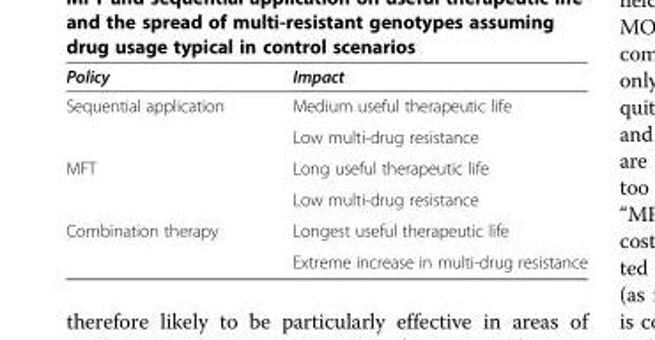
<table><thead><tr><td>Policy</td><td>Impact</td></tr></thead><tbody><tr><td rowspan="2">Sequential application</td><td>Medium useful therapeutic life</td></tr><tr><td>Low multi-drug resistance</td></tr><tr><td rowspan="2">MFT</td><td>Long useful therapeutic life</td></tr><tr><td>Low multi-drug resistance</td></tr><tr><td rowspan="2">Combination therapy</td><td>Longest useful therapeutic life</td></tr><tr><td>Extreme increase in multi-drug resistance</td></tr></tbody></table>